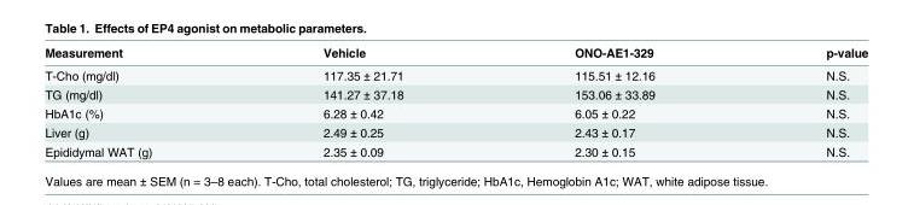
<table><thead><tr><td>Measurement</td><td>Vehicle</td><td>ONO-AE1-329</td><td>p-value</td></tr></thead><tbody><tr><td>T-Cho (mg/dl)</td><td>117.35 ± 21.71</td><td>115.51 ± 12.16</td><td>N.S.</td></tr><tr><td>TG (mg/dl)</td><td>141.27 ± 37.18</td><td>153.06 ± 33.89</td><td>N.S.</td></tr><tr><td>HbA1c (%)</td><td>6.28 ± 0.42</td><td>6.05 ± 0.22</td><td>N.S.</td></tr><tr><td>Liver (g)</td><td>2.49 ± 0.25</td><td>2.43 ± 0.17</td><td>N.S.</td></tr><tr><td>Epididymal WAT (g)</td><td>2.35 ± 0.09</td><td>2.30 ± 0.15</td><td>N.S.</td></tr></tbody></table>